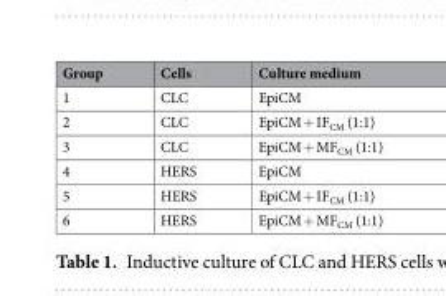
<table><thead><tr><td>Group</td><td>Cells</td><td>Culture medium</td></tr></thead><tbody><tr><td>1</td><td>CLC</td><td>EpiCM</td></tr><tr><td>2</td><td>CLC</td><td>EpiCM + IF<sub>CM</sub> (1:1)</td></tr><tr><td>3</td><td>CLC</td><td>EpiCM + MF<sub>CM</sub> (1:1)</td></tr><tr><td>4</td><td>HERS</td><td>EpiCM</td></tr><tr><td>5</td><td>HERS</td><td>EpiCM + IF<sub>CM</sub> (1:1)</td></tr><tr><td>6</td><td>HERS</td><td>EpiCM + MF<sub>CM</sub> (1:1)</td></tr></tbody></table>